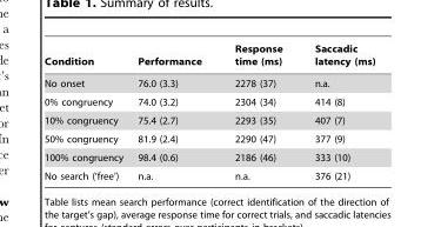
<table><thead><tr><td>Condition</td><td>Performance</td><td>Response time (ms)</td><td>Saccadic latency (ms)</td></tr></thead><tbody><tr><td>No onset</td><td>76.0 (3.3)</td><td>2278 (37)</td><td>n.a.</td></tr><tr><td>0% congruency</td><td>74.0 (3.2)</td><td>2304 (34)</td><td>414 (8)</td></tr><tr><td>10% congruency</td><td>75.4 (2.7)</td><td>2293 (35)</td><td>407 (7)</td></tr><tr><td>50% congruency</td><td>81.9 (2.4)</td><td>2290 (47)</td><td>377 (9)</td></tr><tr><td>100% congruency</td><td>98.4 (0.6)</td><td>2186 (46)</td><td>333 (10)</td></tr><tr><td>No search (‘free’)</td><td>n.a.</td><td>n.a.</td><td>376 (21)</td></tr></tbody></table>